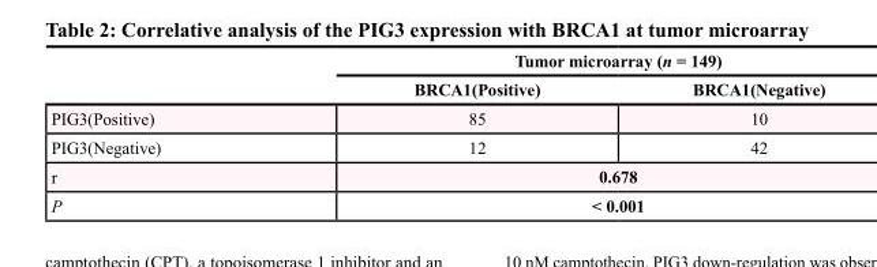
<table><thead><tr><td rowspan="2"></td><td colspan="2">Tumor microarray (n = 149)</td></tr><tr><td>BRCA1(Positive)</td><td>BRCA1(Negative)</td></tr></thead><tbody><tr><td>PIG3(Positive)</td><td>85</td><td>10</td></tr><tr><td>PIG3(Negative)</td><td>12</td><td>42</td></tr><tr><td>r</td><td colspan="2">0.678</td></tr><tr><td>P</td><td colspan="2">&lt; 0.001</td></tr></tbody></table>